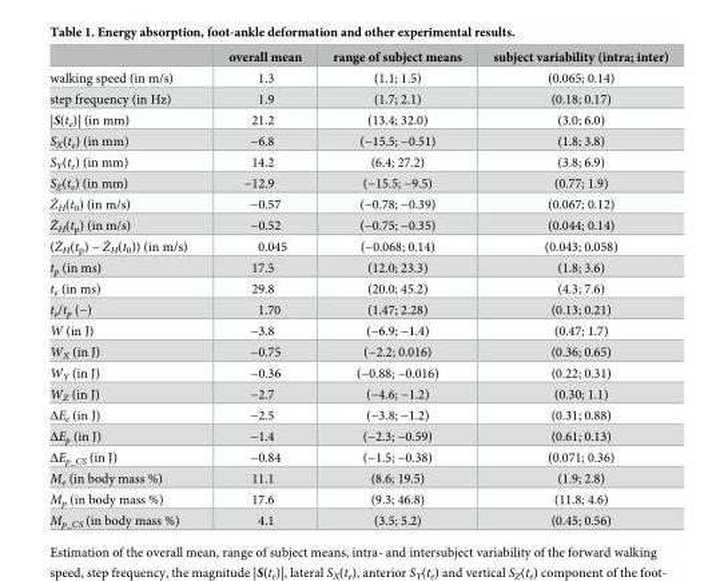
<table><thead><tr><td></td><td>overall mean</td><td>range of subject means</td><td>subject variability (intra; inter)</td></tr></thead><tbody><tr><td>walking speed (in m/s)</td><td>1.3</td><td>(1.1; 1.5)</td><td>(0.065; 0.14)</td></tr><tr><td>step frequency (in Hz)</td><td>1.9</td><td>(1.7; 2.1)</td><td>(0.18; 0.17)</td></tr><tr><td>|S(t<sub>e</sub>)| (in mm)</td><td>21.2</td><td>(13.4; 32.0)</td><td>(3.0; 6.0)</td></tr><tr><td>S<sub>X</sub>(t<sub>e</sub>) (in mm)</td><td>−6.8</td><td>(−15.5; −0.51)</td><td>(1.8; 3.8)</td></tr><tr><td>S<sub>Y</sub>(t<sub>e</sub>) (in mm)</td><td>14.2</td><td>(6.4; 27.2)</td><td>(3.8; 6.9)</td></tr><tr><td>S<sub>Z</sub>(t<sub>e</sub>) (in mm)</td><td>−12.9</td><td>(−15.5; −9.5)</td><td>(0.77; 1.9)</td></tr><tr><td>Ż<sub>H</sub>(t<sub>0</sub>) (in m/s)</td><td>−0.57</td><td>(−0.78; −0.39)</td><td>(0.067; 0.12)</td></tr><tr><td>Ż<sub>H</sub>(t<sub>p</sub>) (in m/s)</td><td>−0.52</td><td>(−0.75; −0.35)</td><td>(0.044; 0.14)</td></tr><tr><td>(Ż<sub>H</sub>(t<sub>p</sub>) − Ż<sub>H</sub>(t<sub>0</sub>)) (in m/s)</td><td>0.045</td><td>(−0.068; 0.14)</td><td>(0.043; 0.058)</td></tr><tr><td>t<sub>p</sub> (in ms)</td><td>17.5</td><td>(12.0; 23.3)</td><td>(1.8; 3.6)</td></tr><tr><td>t<sub>e</sub> (in ms)</td><td>29.8</td><td>(20.0; 45.2)</td><td>(4.3; 7.6)</td></tr><tr><td>t<sub>e</sub>/t<sub>p</sub> (−)</td><td>1.70</td><td>(1.47; 2.28)</td><td>(0.13; 0.21)</td></tr><tr><td>W (in J)</td><td>−3.8</td><td>(−6.9; −1.4)</td><td>(0.47; 1.7)</td></tr><tr><td>W<sub>X</sub> (in J)</td><td>−0.75</td><td>(−2.2; 0.016)</td><td>(0.36; 0.65)</td></tr><tr><td>W<sub>Y</sub> (in J)</td><td>−0.36</td><td>(−0.88; −0.016)</td><td>(0.22; 0.31)</td></tr><tr><td>W<sub>Z</sub> (in J)</td><td>−2.7</td><td>(−4.6; −1.2)</td><td>(0.30; 1.1)</td></tr><tr><td>ΔE<sub>e</sub> (in J)</td><td>−2.5</td><td>(−3.8; −1.2)</td><td>(0.31; 0.88)</td></tr><tr><td>ΔE<sub>p</sub> (in J)</td><td>−1.4</td><td>(−2.3; −0.59)</td><td>(0.61; 0.13)</td></tr><tr><td>ΔE<sub>p_CS</sub> (in J)</td><td>−0.84</td><td>(−1.5; −0.38)</td><td>(0.071; 0.36)</td></tr><tr><td>M<sub>e</sub> (in body mass %)</td><td>11.1</td><td>(8.6; 19.5)</td><td>(1.9; 2.8)</td></tr><tr><td>M<sub>p</sub> (in body mass %)</td><td>17.6</td><td>(9.3; 46.8)</td><td>(11.8; 4.6)</td></tr><tr><td>M<sub>p_CS</sub> (in body mass %)</td><td>4.1</td><td>(3.5; 5.2)</td><td>(0.45; 0.56)</td></tr></tbody></table>